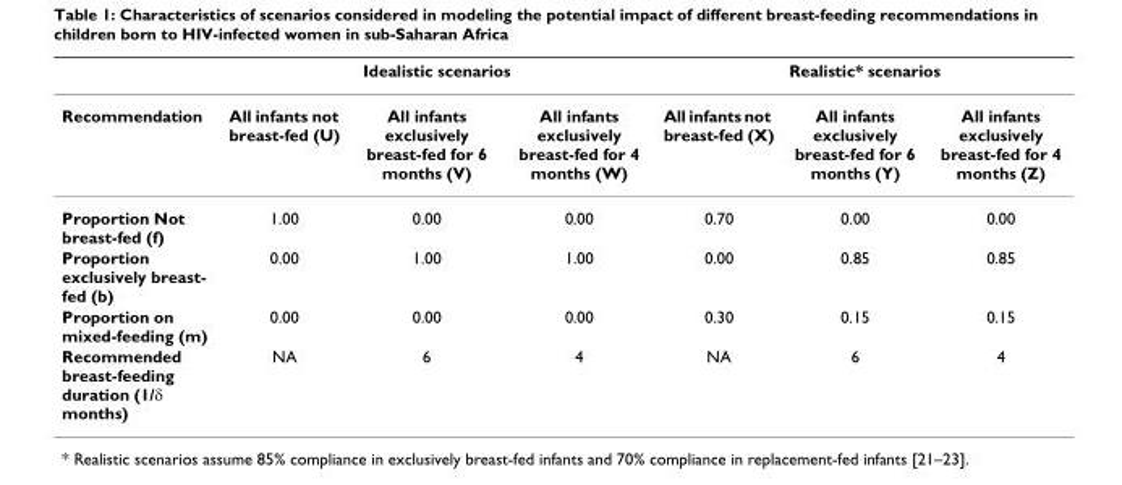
<table><thead><tr><td rowspan="2">Recommendation</td><td colspan="3">Idealistic scenarios</td><td colspan="3">Realistic* scenarios</td></tr><tr><td>All infants not breast-fed (U)</td><td>All infants exclusively breast-fed for 6 months (V)</td><td>All infants exclusively breast-fed for 4 months (W)</td><td>All infants not breast-fed (X)</td><td>All infants exclusively breast-fed for 6 months (Y)</td><td>All infants exclusively breast-fed for 4 months (Z)</td></tr></thead><tbody><tr><td>Proportion Not breast-fed (f)</td><td>1.00</td><td>0.00</td><td>0.00</td><td>0.70</td><td>0.00</td><td>0.00</td></tr><tr><td>Proportion exclusively breast- fed (b)</td><td>0.00</td><td>1.00</td><td>1.00</td><td>0.00</td><td>0.85</td><td>0.85</td></tr><tr><td>Proportion on mixed-feeding (m)</td><td>0.00</td><td>0.00</td><td>0.00</td><td>0.30</td><td>0.15</td><td>0.15</td></tr><tr><td>Recommended breast-feeding duration (1/δ months)</td><td>NA</td><td>6</td><td>4</td><td>NA</td><td>6</td><td>4</td></tr></tbody></table>